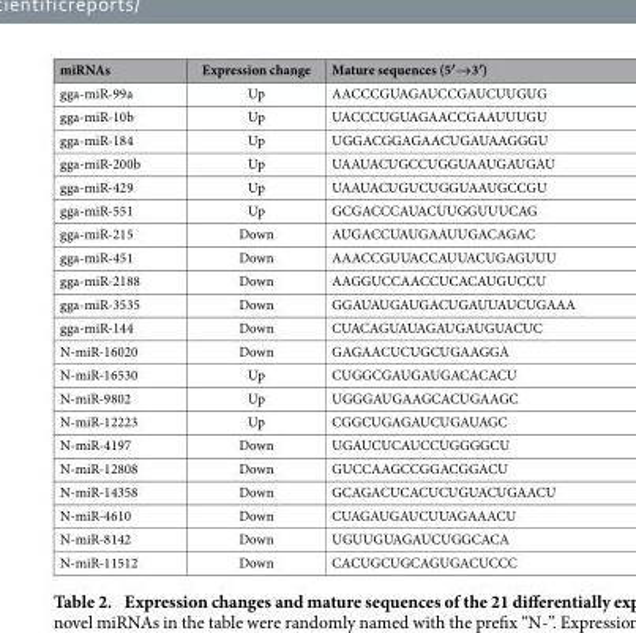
<table><thead><tr><td>miRNAs</td><td>Expression change</td><td>Mature sequences (5′→3′)</td></tr></thead><tbody><tr><td>gga-miR-99a</td><td>Up</td><td>AACCCGUAGAUCCGAUCUUGUG</td></tr><tr><td>gga-miR-10b</td><td>Up</td><td>UACCCUGUAGAACCGAAUUUGU</td></tr><tr><td>gga-miR-184</td><td>Up</td><td>UGGACGGAGAACUGAUAAGGGU</td></tr><tr><td>gga-miR-200b</td><td>Up</td><td>UAAUACUGCCUGGUAAUGAUGAU</td></tr><tr><td>gga-miR-429</td><td>Up</td><td>UAAUACUGUCUGGUAAUGCCGU</td></tr><tr><td>gga-miR-551</td><td>Up</td><td>GCGACCCAUACUUGGUUUCAG</td></tr><tr><td>gga-miR-215</td><td>Down</td><td>AUGACCUAUGAAUUGACAGAC</td></tr><tr><td>gga-miR-451</td><td>Down</td><td>AAACCGUUACCAUUACUGAGUUU</td></tr><tr><td>gga-miR-2188</td><td>Down</td><td>AAGGUCCAACCUCACAUGUCCU</td></tr><tr><td>gga-miR-3535</td><td>Down</td><td>GGAUAUGAUGACUGAUUAUCUGAAA</td></tr><tr><td>gga-miR-144</td><td>Down</td><td>CUACAGUAUAGAUGAUGUACUC</td></tr><tr><td>N-miR-16020</td><td>Down</td><td>GAGAACUCUGCUGAAGGA</td></tr><tr><td>N-miR-16530</td><td>Up</td><td>CUGGCGAUGAUGACACACU</td></tr><tr><td>N-miR-9802</td><td>Up</td><td>UGGGAUGAAGCACUGAAGC</td></tr><tr><td>N-miR-12223</td><td>Up</td><td>CGGCUGAGAUCUGAUAGC</td></tr><tr><td>N-miR-4197</td><td>Down</td><td>UGAUCUCAUCCUGGGGCU</td></tr><tr><td>N-miR-12808</td><td>Down</td><td>GUCCAAGCCGGACGGACU</td></tr><tr><td>N-miR-14358</td><td>Down</td><td>GCAGACUCACUCUGUACUGAACU</td></tr><tr><td>N-miR-4610</td><td>Down</td><td>CUAGAUGAUCUUAGAAACU</td></tr><tr><td>N-miR-8142</td><td>Down</td><td>UGUUGUAGAUCUGGCACA</td></tr><tr><td>N-miR-11512</td><td>Down</td><td>CACUGCUGCAGUGACUCCC</td></tr></tbody></table>